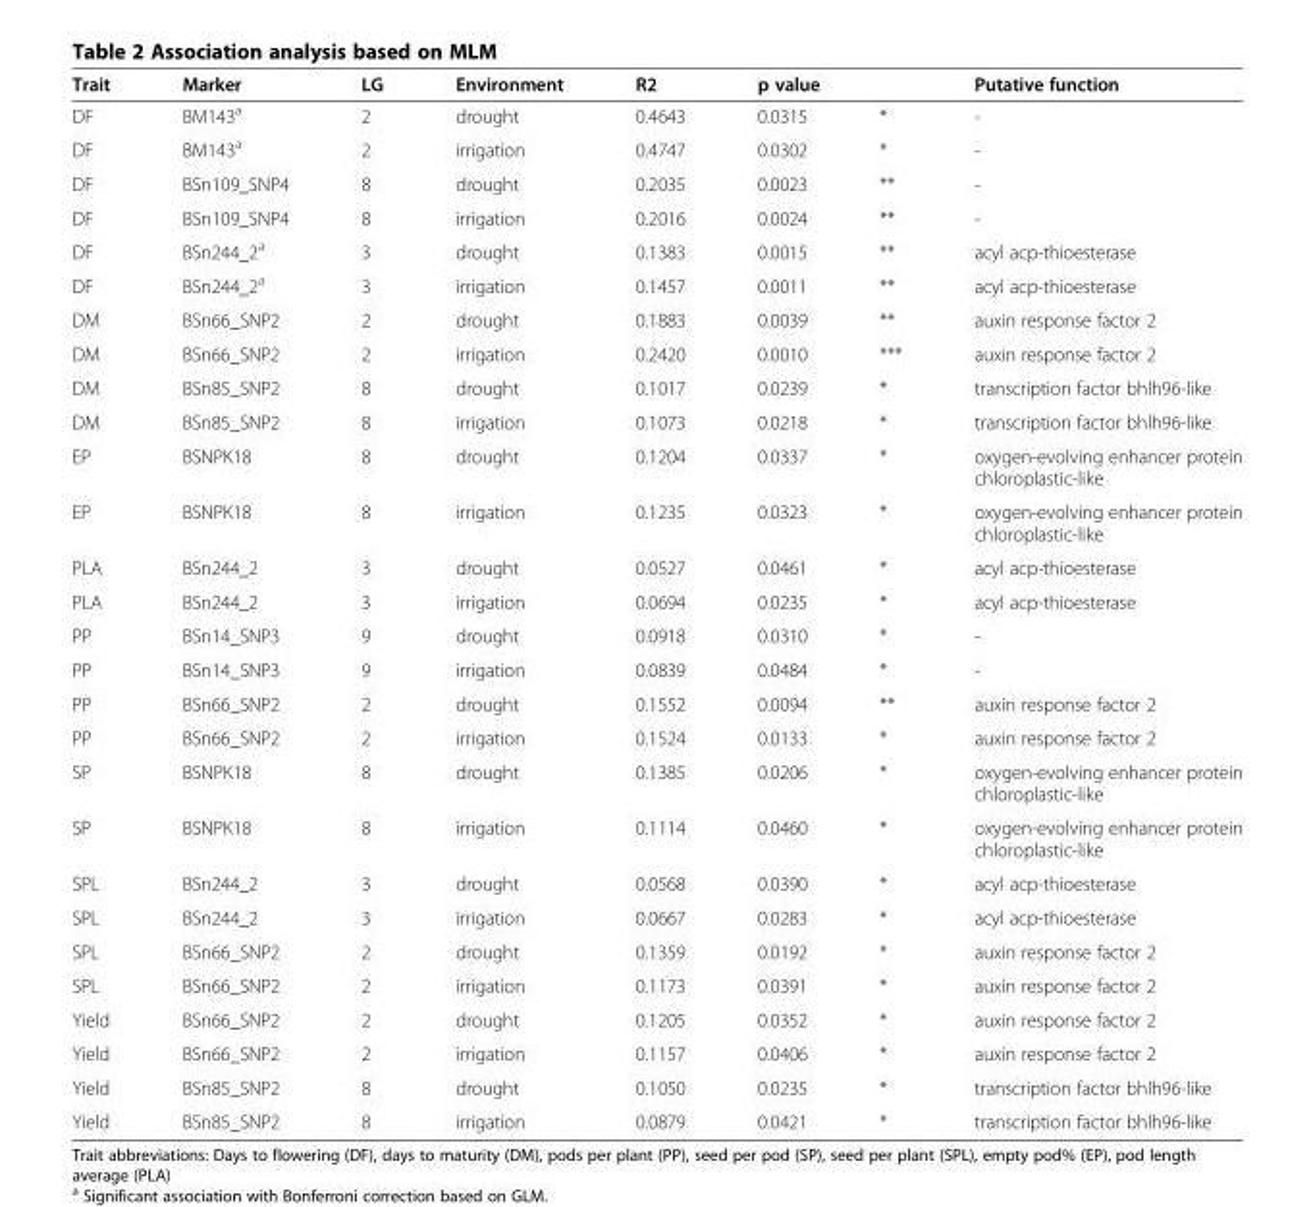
<table><thead><tr><td rowspan="2">Trait DF</td><td rowspan="2">Marker BM143<sup>a</sup></td><td rowspan="2">LG 2</td><td rowspan="2">Environment drought</td><td rowspan="2">R2 0.4643</td><td colspan="2">p value</td><td rowspan="2">Putative function -</td></tr><tr><td>0.0315</td><td>*</td></tr></thead><tbody><tr><td>DF</td><td>BM143<sup>a</sup></td><td>2</td><td>irrigation</td><td>0.4747</td><td>0.0302</td><td>*</td><td>-</td></tr><tr><td>DF</td><td>BSn109_SNP4</td><td>8</td><td>drought</td><td>0.2035</td><td>0.0023</td><td>**</td><td>-</td></tr><tr><td>DF</td><td>BSn109_SNP4</td><td>8</td><td>irrigation</td><td>0.2016</td><td>0.0024</td><td>**</td><td>-</td></tr><tr><td>DF</td><td>BSn244_2<sup>a</sup></td><td>3</td><td>drought</td><td>0.1383</td><td>0.0015</td><td>**</td><td>acyl acp-thioesterase</td></tr><tr><td>DF</td><td>BSn244_2<sup>a</sup></td><td>3</td><td>irrigation</td><td>0.1457</td><td>0.0011</td><td>**</td><td>acyl acp-thioesterase</td></tr><tr><td>DM</td><td>BSn66_SNP2</td><td>2</td><td>drought</td><td>0.1883</td><td>0.0039</td><td>**</td><td>auxin response factor 2</td></tr><tr><td>DM</td><td>BSn66_SNP2</td><td>2</td><td>irrigation</td><td>0.2420</td><td>0.0010</td><td>***</td><td>auxin response factor 2</td></tr><tr><td>DM</td><td>BSn85_SNP2</td><td>8</td><td>drought</td><td>0.1017</td><td>0.0239</td><td>*</td><td>transcription factor bhlh96-like</td></tr><tr><td>DM</td><td>BSn85_SNP2</td><td>8</td><td>irrigation</td><td>0.1073</td><td>0.0218</td><td>*</td><td>transcription factor bhlh96-like</td></tr><tr><td>EP</td><td>BSNPK18</td><td>8</td><td>drought</td><td>0.1204</td><td>0.0337</td><td>*</td><td>oxygen-evolving enhancer protein chloroplastic-like</td></tr><tr><td>EP</td><td>BSNPK18</td><td>8</td><td>irrigation</td><td>0.1235</td><td>0.0323</td><td>*</td><td>oxygen-evolving enhancer protein chloroplastic-like</td></tr><tr><td>PLA</td><td>BSn244_2</td><td>3</td><td>drought</td><td>0.0527</td><td>0.0461</td><td>*</td><td>acyl acp-thioesterase</td></tr><tr><td>PLA</td><td>BSn244_2</td><td>3</td><td>irrigation</td><td>0.0694</td><td>0.0235</td><td>*</td><td>acyl acp-thioesterase</td></tr><tr><td>PP</td><td>BSn14_SNP3</td><td>9</td><td>drought</td><td>0.0918</td><td>0.0310</td><td>*</td><td>-</td></tr><tr><td>PP</td><td>BSn14_SNP3</td><td>9</td><td>irrigation</td><td>0.0839</td><td>0.0484</td><td>*</td><td>-</td></tr><tr><td>PP</td><td>BSn66_SNP2</td><td>2</td><td>drought</td><td>0.1552</td><td>0.0094</td><td>**</td><td>auxin response factor 2</td></tr><tr><td>PP</td><td>BSn66_SNP2</td><td>2</td><td>irrigation</td><td>0.1524</td><td>0.0133</td><td>*</td><td>auxin response factor 2</td></tr><tr><td>SP</td><td>BSNPK18</td><td>8</td><td>drought</td><td>0.1385</td><td>0.0206</td><td>*</td><td>oxygen-evolving enhancer protein chloroplastic-like</td></tr><tr><td>SP</td><td>BSNPK18</td><td>8</td><td>irrigation</td><td>0.1114</td><td>0.0460</td><td>*</td><td>oxygen-evolving enhancer protein chloroplastic-like</td></tr><tr><td>SPL</td><td>BSn244_2</td><td>3</td><td>drought</td><td>0.0568</td><td>0.0390</td><td>*</td><td>acyl acp-thioesterase</td></tr><tr><td>SPL</td><td>BSn244_2</td><td>3</td><td>irrigation</td><td>0.0667</td><td>0.0283</td><td>*</td><td>acyl acp-thioesterase</td></tr><tr><td>SPL</td><td>BSn66_SNP2</td><td>2</td><td>drought</td><td>0.1359</td><td>0.0192</td><td>*</td><td>auxin response factor 2</td></tr><tr><td>SPL</td><td>BSn66_SNP2</td><td>2</td><td>irrigation</td><td>0.1173</td><td>0.0391</td><td>*</td><td>auxin response factor 2</td></tr><tr><td>Yield</td><td>BSn66_SNP2</td><td>2</td><td>drought</td><td>0.1205</td><td>0.0352</td><td>*</td><td>auxin response factor 2</td></tr><tr><td>Yield</td><td>BSn66_SNP2</td><td>2</td><td>irrigation</td><td>0.1157</td><td>0.0406</td><td>*</td><td>auxin response factor 2</td></tr><tr><td>Yield</td><td>BSn85_SNP2</td><td>8</td><td>drought</td><td>0.1050</td><td>0.0235</td><td>*</td><td>transcription factor bhlh96-like</td></tr><tr><td>Yield</td><td>BSn85_SNP2</td><td>8</td><td>irrigation</td><td>0.0879</td><td>0.0421</td><td>*</td><td>transcription factor bhlh96-like</td></tr></tbody></table>